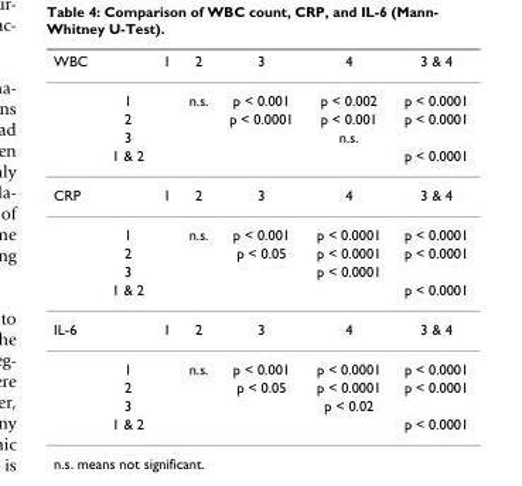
<table><thead><tr><td>WBC</td><td></td><td>1</td><td>2</td><td>3</td><td>4</td><td>3 &amp; 4</td></tr></thead><tbody><tr><td></td><td>1</td><td></td><td>n.s.</td><td>p &lt; 0.001</td><td>p &lt; 0.002</td><td>p &lt; 0.0001</td></tr><tr><td></td><td>2</td><td></td><td></td><td>p &lt; 0.0001</td><td>p &lt; 0.001</td><td>p &lt; 0.0001</td></tr><tr><td></td><td>3</td><td></td><td></td><td></td><td>n.s.</td><td></td></tr><tr><td></td><td>1 &amp; 2</td><td></td><td></td><td></td><td></td><td>p &lt; 0.0001</td></tr><tr><td rowspan="5">CRP</td><td></td><td>1</td><td>2</td><td>3</td><td>4</td><td>3 &amp; 4</td></tr><tr><td>1</td><td></td><td>n.s.</td><td>p &lt; 0.001</td><td>p &lt; 0.0001</td><td>p &lt; 0.0001</td></tr><tr><td>2</td><td></td><td></td><td>p &lt; 0.05</td><td>p &lt; 0.0001</td><td>p &lt; 0.0001</td></tr><tr><td>3</td><td></td><td></td><td></td><td>p &lt; 0.0001</td><td></td></tr><tr><td>1 &amp; 2</td><td></td><td></td><td></td><td></td><td>p &lt; 0.0001</td></tr><tr><td rowspan="5">IL-6</td><td></td><td>1</td><td>2</td><td>3</td><td>4</td><td>3 &amp; 4</td></tr><tr><td>1</td><td></td><td>n.s.</td><td>p &lt; 0.001</td><td>p &lt; 0.0001</td><td>p &lt; 0.0001</td></tr><tr><td>2</td><td></td><td></td><td>p &lt; 0.05</td><td>p &lt; 0.0001</td><td>p &lt; 0.0001</td></tr><tr><td>3</td><td></td><td></td><td></td><td>p &lt; 0.02</td><td></td></tr><tr><td>1 &amp; 2</td><td></td><td></td><td></td><td></td><td>p &lt; 0.0001</td></tr></tbody></table>